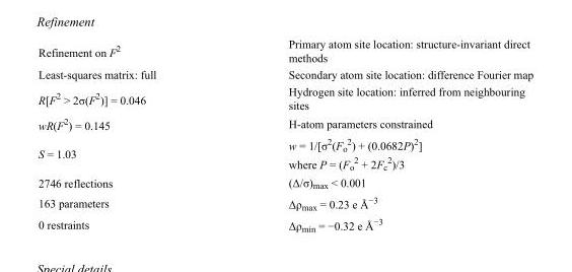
<table><tbody><tr><td>Refinement on F<sup>2</sup></td><td>Primary atom site location: structure-invariant direct methods</td></tr><tr><td>Least-squares matrix: full</td><td>Secondary atom site location: difference Fourier map</td></tr><tr><td>R[F<sup>2</sup> &gt; 2σ(F<sup>2</sup>)] = 0.046</td><td>Hydrogen site location: inferred from neighbouring sites</td></tr><tr><td>wR(F<sup>2</sup>) = 0.145</td><td>H-atom parameters constrained</td></tr><tr><td>S = 1.03</td><td>w = 1/[σ<sup>2</sup>(F<sub>o</sub> <sup>2</sup>) + (0.0682P)<sup>2</sup>] where P = (F<sub>o</sub> <sup>2</sup> + 2F<sub>c</sub> <sup>2</sup>)/3</td></tr><tr><td>2746 reflections</td><td>(Δ/σ)<sub>max</sub> &lt; 0.001</td></tr><tr><td>163 parameters</td><td>Δρ<sub>max</sub> = 0.23 e Å<sup>−3</sup></td></tr><tr><td>0 restraints</td><td>Δρmin = −0.32 e Å−3</td></tr></tbody></table>